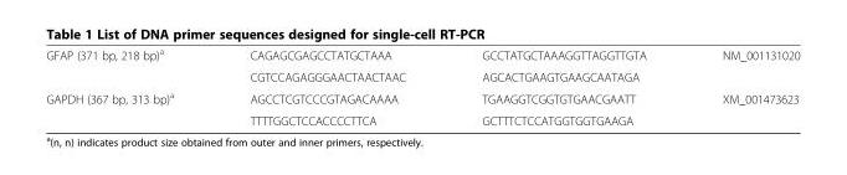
<table><tbody><tr><td rowspan="2">GFAP (371 bp, 218 bp)<sup>a</sup></td><td>CAGAGCGAGCCTATGCTAAA</td><td>GCCTATGCTAAAGGTTAGGTTGTA</td><td rowspan="2">NM_001131020</td></tr><tr><td>CGTCCAGAGGGAACTAACTAAC</td><td>AGCACTGAAGTGAAGCAATAGA</td></tr><tr><td rowspan="2">GAPDH (367 bp, 313 bp)<sup>a</sup></td><td>AGCCTCGTCCCGTAGACAAAA</td><td>TGAAGGTCGGTGTGAACGAATT</td><td rowspan="2">XM_001473623</td></tr><tr><td>TTTTGGCTCCACCCCTTCA</td><td>GCTTTCTCCATGGTGGTGAAGA</td></tr></tbody></table>